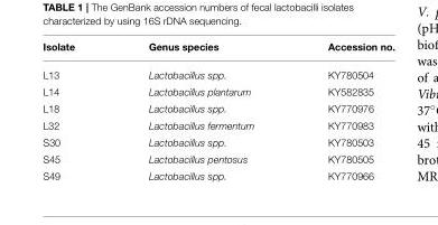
<table><thead><tr><td>Isolate</td><td>Genus species</td><td>Accession no.</td></tr></thead><tbody><tr><td>L13</td><td>Lactobacillus spp.</td><td>KY780504</td></tr><tr><td>L14</td><td>Lactobacillus plantarum</td><td>KY582835</td></tr><tr><td>L18</td><td>Lactobacillus spp.</td><td>KY770976</td></tr><tr><td>L32</td><td>Lactobacillus fermentum</td><td>KY770983</td></tr><tr><td>S30</td><td>Lactobacillus spp.</td><td>KY780503</td></tr><tr><td>S45</td><td>Lactobacillus pentosus</td><td>KY780505</td></tr><tr><td>S49</td><td>Lactobacillus spp.</td><td>KY770966</td></tr></tbody></table>